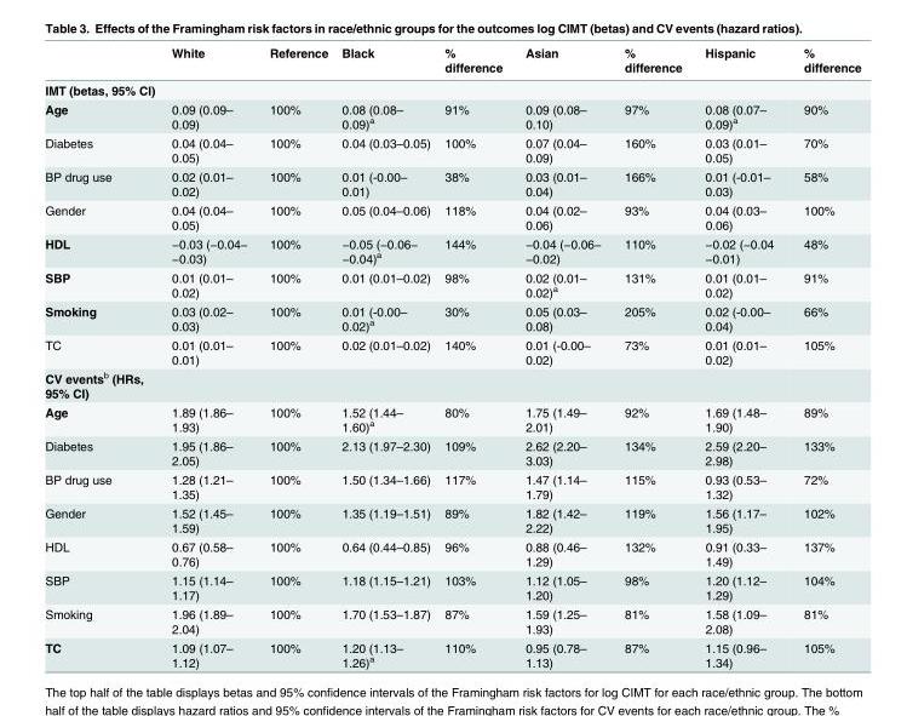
<table><thead><tr><td></td><td>White</td><td>Reference</td><td>Black</td><td>% difference</td><td>Asian</td><td>% difference</td><td>Hispanic</td><td>% difference</td></tr></thead><tbody><tr><td colspan="9">IMT (betas, 95% CI)</td></tr><tr><td>Age</td><td>0.09 (0.09– 0.09)</td><td>100%</td><td>0.08 (0.08– 0.09)<sup>a</sup></td><td>91%</td><td>0.09 (0.08– 0.10)</td><td>97%</td><td>0.08 (0.07– 0.09)<sup>a</sup></td><td>90%</td></tr><tr><td>Diabetes</td><td>0.04 (0.04– 0.05)</td><td>100%</td><td>0.04 (0.03–0.05)</td><td>100%</td><td>0.07 (0.04– 0.09)</td><td>160%</td><td>0.03 (0.01– 0.05)</td><td>70%</td></tr><tr><td>BP drug use</td><td>0.02 (0.01– 0.02)</td><td>100%</td><td>0.01 (-0.00– 0.01)</td><td>38%</td><td>0.03 (0.01– 0.04)</td><td>166%</td><td>0.01 (-0.01– 0.03)</td><td>58%</td></tr><tr><td>Gender</td><td>0.04 (0.04– 0.05)</td><td>100%</td><td>0.05 (0.04–0.06)</td><td>118%</td><td>0.04 (0.02– 0.06)</td><td>93%</td><td>0.04 (0.03– 0.06)</td><td>100%</td></tr><tr><td>HDL</td><td>−0.03 (−0.04− −0.03)</td><td>100%</td><td>−0.05 (−0.06− −0.04)<sup>a</sup></td><td>144%</td><td>−0.04 (−0.06− −0.02)</td><td>110%</td><td>−0.02 (−0.04 −0.01)</td><td>48%</td></tr><tr><td>SBP</td><td>0.01 (0.01– 0.02)</td><td>100%</td><td>0.01 (0.01–0.02)</td><td>98%</td><td>0.02 (0.01– 0.02)<sup>a</sup></td><td>131%</td><td>0.01 (0.01– 0.02)</td><td>91%</td></tr><tr><td>Smoking</td><td>0.03 (0.02– 0.03)</td><td>100%</td><td>0.01 (-0.00– 0.02)<sup>a</sup></td><td>30%</td><td>0.05 (0.03– 0.08)</td><td>205%</td><td>0.02 (-0.00– 0.04)</td><td>66%</td></tr><tr><td>TC</td><td>0.01 (0.01– 0.01)</td><td>100%</td><td>0.02 (0.01–0.02)</td><td>140%</td><td>0.01 (-0.00– 0.02)</td><td>73%</td><td>0.01 (0.01– 0.02)</td><td>105%</td></tr><tr><td colspan="9">CV events<sup>b</sup> (HRs, 95% CI)</td></tr><tr><td>Age</td><td>1.89 (1.86– 1.93)</td><td>100%</td><td>1.52 (1.44– 1.60)<sup>a</sup></td><td>80%</td><td>1.75 (1.49– 2.01)</td><td>92%</td><td>1.69 (1.48– 1.90)</td><td>89%</td></tr><tr><td>Diabetes</td><td>1.95 (1.86– 2.05)</td><td>100%</td><td>2.13 (1.97–2.30)</td><td>109%</td><td>2.62 (2.20– 3.03)</td><td>134%</td><td>2.59 (2.20– 2.98)</td><td>133%</td></tr><tr><td>BP drug use</td><td>1.28 (1.21– 1.35)</td><td>100%</td><td>1.50 (1.34–1.66)</td><td>117%</td><td>1.47 (1.14– 1.79)</td><td>115%</td><td>0.93 (0.53– 1.32)</td><td>72%</td></tr><tr><td>Gender</td><td>1.52 (1.45– 1.59)</td><td>100%</td><td>1.35 (1.19–1.51)</td><td>89%</td><td>1.82 (1.42– 2.22)</td><td>119%</td><td>1.56 (1.17– 1.95)</td><td>102%</td></tr><tr><td>HDL</td><td>0.67 (0.58– 0.76)</td><td>100%</td><td>0.64 (0.44–0.85)</td><td>96%</td><td>0.88 (0.46– 1.29)</td><td>132%</td><td>0.91 (0.33– 1.49)</td><td>137%</td></tr><tr><td>SBP</td><td>1.15 (1.14– 1.17)</td><td>100%</td><td>1.18 (1.15–1.21)</td><td>103%</td><td>1.12 (1.05– 1.20)</td><td>98%</td><td>1.20 (1.12– 1.29)</td><td>104%</td></tr><tr><td>Smoking</td><td>1.96 (1.89– 2.04)</td><td>100%</td><td>1.70 (1.53–1.87)</td><td>87%</td><td>1.59 (1.25– 1.93)</td><td>81%</td><td>1.58 (1.09– 2.08)</td><td>81%</td></tr><tr><td>TC</td><td>1.09 (1.07– 1.12)</td><td>100%</td><td>1.20 (1.13– 1.26)<sup>a</sup></td><td>110%</td><td>0.95 (0.78– 1.13)</td><td>87%</td><td>1.15 (0.96– 1.34)</td><td>105%</td></tr></tbody></table>